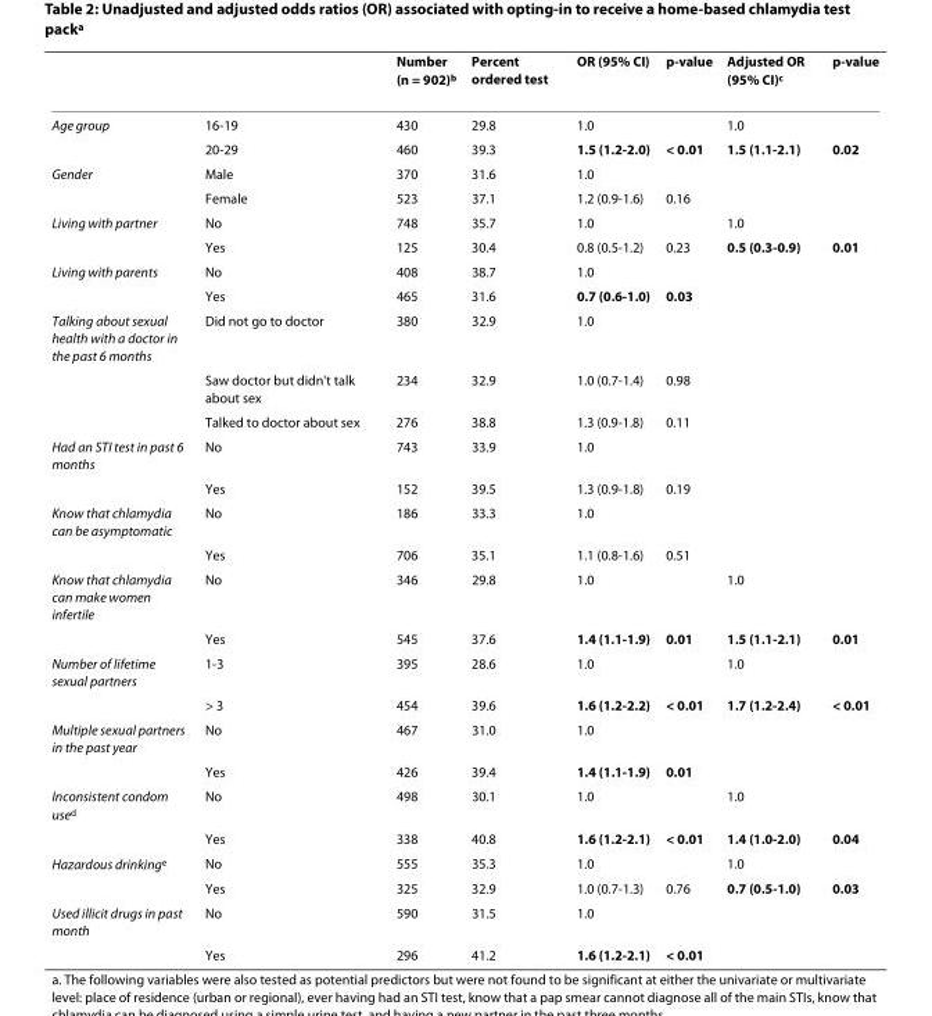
<table><thead><tr><td></td><td></td><td>Number (n = 902)<sup>b</sup></td><td>Percent ordered test</td><td>OR (95% CI)</td><td>p-value</td><td>Adjusted OR (95% CI)<sup>c</sup></td><td>p-value</td></tr></thead><tbody><tr><td rowspan="2">Age group</td><td>16-19</td><td>430</td><td>29.8</td><td>1.0</td><td></td><td>1.0</td><td></td></tr><tr><td>20-29</td><td>460</td><td>39.3</td><td>1.5 (1.2-2.0)</td><td>&lt; 0.01</td><td>1.5 (1.1-2.1)</td><td>0.02</td></tr><tr><td rowspan="2">Gender</td><td>Male</td><td>370</td><td>31.6</td><td>1.0</td><td></td><td></td><td></td></tr><tr><td>Female</td><td>523</td><td>37.1</td><td>1.2 (0.9-1.6)</td><td>0.16</td><td></td><td></td></tr><tr><td rowspan="2">Living with partner</td><td>No</td><td>748</td><td>35.7</td><td>1.0</td><td></td><td>1.0</td><td></td></tr><tr><td>Yes</td><td>125</td><td>30.4</td><td>0.8 (0.5-1.2)</td><td>0.23</td><td>0.5 (0.3-0.9)</td><td>0.01</td></tr><tr><td rowspan="2">Living with parents</td><td>No</td><td>408</td><td>38.7</td><td>1.0</td><td></td><td></td><td></td></tr><tr><td>Yes</td><td>465</td><td>31.6</td><td>0.7 (0.6-1.0)</td><td>0.03</td><td></td><td></td></tr><tr><td rowspan="3">Talking about sexual health with a doctor in the past 6 months</td><td>Did not go to doctor</td><td>380</td><td>32.9</td><td>1.0</td><td></td><td></td><td></td></tr><tr><td>Saw doctor but didn&#x27;t talk about sex</td><td>234</td><td>32.9</td><td>1.0 (0.7-1.4)</td><td>0.98</td><td></td><td></td></tr><tr><td>Talked to doctor about sex</td><td>276</td><td>38.8</td><td>1.3 (0.9-1.8)</td><td>0.11</td><td></td><td></td></tr><tr><td rowspan="2">Had an STI test in past 6 months</td><td>No</td><td>743</td><td>33.9</td><td>1.0</td><td></td><td></td><td></td></tr><tr><td>Yes</td><td>152</td><td>39.5</td><td>1.3 (0.9-1.8)</td><td>0.19</td><td></td><td></td></tr><tr><td rowspan="2">Know that chlamydia can be asymptomatic</td><td>No</td><td>186</td><td>33.3</td><td>1.0</td><td></td><td></td><td></td></tr><tr><td>Yes</td><td>706</td><td>35.1</td><td>1.1 (0.8-1.6)</td><td>0.51</td><td></td><td></td></tr><tr><td rowspan="2">Know that chlamydia can make women infertile</td><td>No</td><td>346</td><td>29.8</td><td>1.0</td><td></td><td>1.0</td><td></td></tr><tr><td>Yes</td><td>545</td><td>37.6</td><td>1.4 (1.1-1.9)</td><td>0.01</td><td>1.5 (1.1-2.1)</td><td>0.01</td></tr><tr><td rowspan="2">Number of lifetime sexual partners</td><td>1-3</td><td>395</td><td>28.6</td><td>1.0</td><td></td><td>1.0</td><td></td></tr><tr><td>&gt; 3</td><td>454</td><td>39.6</td><td>1.6 (1.2-2.2)</td><td>&lt; 0.01</td><td>1.7 (1.2-2.4)</td><td>&lt; 0.01</td></tr><tr><td rowspan="2">Multiple sexual partners in the past year</td><td>No</td><td>467</td><td>31.0</td><td>1.0</td><td></td><td></td><td></td></tr><tr><td>Yes</td><td>426</td><td>39.4</td><td>1.4 (1.1-1.9)</td><td>0.01</td><td></td><td></td></tr><tr><td rowspan="2">Inconsistent condom use<sup>d</sup></td><td>No</td><td>498</td><td>30.1</td><td>1.0</td><td></td><td>1.0</td><td></td></tr><tr><td>Yes</td><td>338</td><td>40.8</td><td>1.6 (1.2-2.1)</td><td>&lt; 0.01</td><td>1.4 (1.0-2.0)</td><td>0.04</td></tr><tr><td rowspan="2">Hazardous drinking<sup>e</sup></td><td>No</td><td>555</td><td>35.3</td><td>1.0</td><td></td><td>1.0</td><td></td></tr><tr><td>Yes</td><td>325</td><td>32.9</td><td>1.0 (0.7-1.3)</td><td>0.76</td><td>0.7 (0.5-1.0)</td><td>0.03</td></tr><tr><td rowspan="2">Used illicit drugs in past month</td><td>No</td><td>590</td><td>31.5</td><td>1.0</td><td></td><td></td><td></td></tr><tr><td>Yes</td><td>296</td><td>41.2</td><td>1.6 (1.2-2.1)</td><td>&lt; 0.01</td><td></td><td></td></tr></tbody></table>